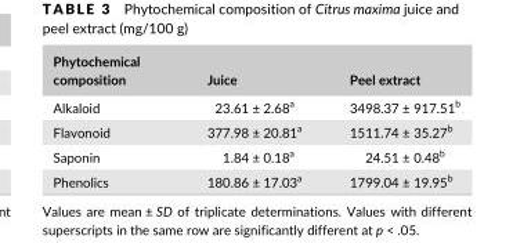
<table><thead><tr><td>Phytochemical composition</td><td>Juice</td><td>Peel extract</td></tr></thead><tbody><tr><td>Alkaloid</td><td>23.61 ± 2.68<sup>a</sup></td><td>3498.37 ± 917.51<sup>b</sup></td></tr><tr><td>Flavonoid</td><td>377.98 ± 20.81<sup>a</sup></td><td>1511.74 ± 35.27<sup>b</sup></td></tr><tr><td>Saponin</td><td>1.84 ± 0.18<sup>a</sup></td><td>24.51 ± 0.48<sup>b</sup></td></tr><tr><td>Phenolics</td><td>180.86 ± 17.03<sup>a</sup></td><td>1799.04 ± 19.95<sup>b</sup></td></tr></tbody></table>